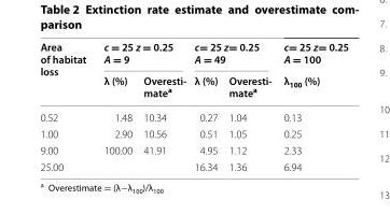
<table><thead><tr><td rowspan="2">Area of habitat loss</td><td colspan="2">c = 25 z = 0.25 A = 9</td><td colspan="2">c= 25 z= 0.25 A = 49</td><td rowspan="2">c= 25 z= 0.25 A = 100 λ<sub>100</sub> (%)</td></tr><tr><td>λ (%)</td><td>Overesti- matea</td><td>λ (%)</td><td>Overesti- matea</td></tr></thead><tbody><tr><td>0.52</td><td>1.48</td><td>10.34</td><td>0.27</td><td>1.04</td><td>0.13</td></tr><tr><td>1.00</td><td>2.90</td><td>10.56</td><td>0.51</td><td>1.05</td><td>0.25</td></tr><tr><td>9.00</td><td>100.00</td><td>41.91</td><td>4.95</td><td>1.12</td><td>2.33</td></tr><tr><td>25.00</td><td></td><td></td><td>16.34</td><td>1.36</td><td>6.94</td></tr></tbody></table>